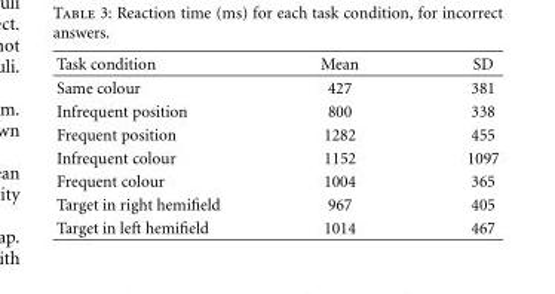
<table><thead><tr><td>Task condition</td><td>Mean</td><td>SD</td></tr></thead><tbody><tr><td>Same colour</td><td>427</td><td>381</td></tr><tr><td>Infrequent position</td><td>800</td><td>338</td></tr><tr><td>Frequent position</td><td>1282</td><td>455</td></tr><tr><td>Infrequent colour</td><td>1152</td><td>1097</td></tr><tr><td>Frequent colour</td><td>1004</td><td>365</td></tr><tr><td>Target in right hemifield</td><td>967</td><td>405</td></tr><tr><td>Target in left hemifield</td><td>1014</td><td>467</td></tr></tbody></table>